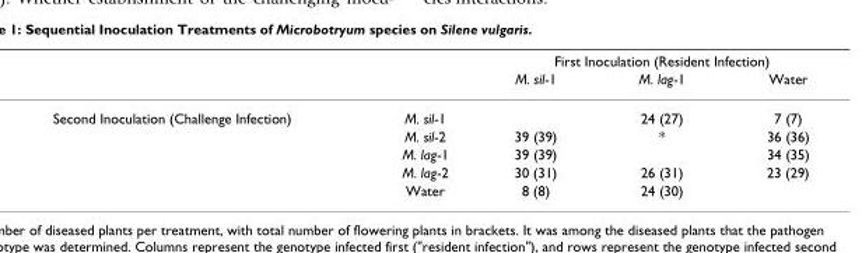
<table><thead><tr><td rowspan="2"></td><td rowspan="2"></td><td colspan="3">First Inoculation (Resident Infection)</td></tr><tr><td>M. sil-1</td><td>M. lag-1</td><td>Water</td></tr></thead><tbody><tr><td rowspan="5">Second Inoculation (Challenge Infection)</td><td>M. sil-1</td><td></td><td>24 (27)</td><td>7 (7)</td></tr><tr><td>M. sil-2</td><td>39 (39)</td><td>*</td><td>36 (36)</td></tr><tr><td>M. lag-1</td><td>39 (39)</td><td></td><td>34 (35)</td></tr><tr><td>M. lag-2</td><td>30 (31)</td><td>26 (31)</td><td>23 (29)</td></tr><tr><td>Water</td><td>8 (8)</td><td>24 (30)</td><td></td></tr></tbody></table>